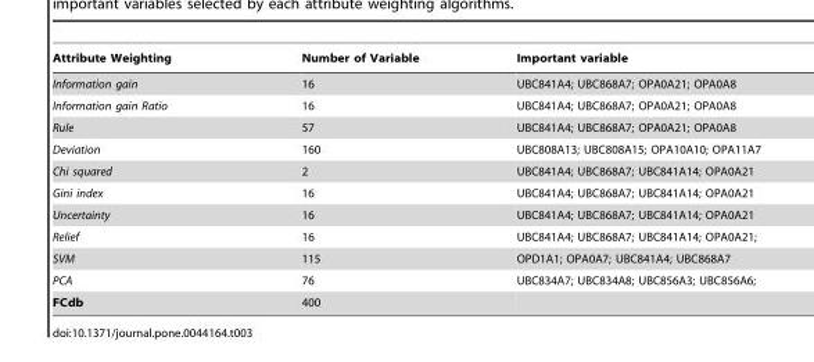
<table><thead><tr><td>Attribute Weighting</td><td>Number of Variable</td><td>Important variable</td></tr></thead><tbody><tr><td>Information gain</td><td>16</td><td>UBC841A4; UBC868A7; OPA0A21; OPA0A8</td></tr><tr><td>Information gain Ratio</td><td>16</td><td>UBC841A4; UBC868A7; OPA0A21; OPA0A8</td></tr><tr><td>Rule</td><td>57</td><td>UBC841A4; UBC868A7; OPA0A21; OPA0A8</td></tr><tr><td>Deviation</td><td>160</td><td>UBC808A13; UBC808A15; OPA10A10; OPA11A7</td></tr><tr><td>Chi squared</td><td>2</td><td>UBC841A4; UBC868A7; UBC841A14; OPA0A21</td></tr><tr><td>Gini index</td><td>16</td><td>UBC841A4; UBC868A7; UBC841A14; OPA0A21</td></tr><tr><td>Uncertainty</td><td>16</td><td>UBC841A4; UBC868A7; UBC841A14; OPA0A21</td></tr><tr><td>Relief</td><td>16</td><td>UBC841A4; UBC868A7; UBC841A14; OPA0A21;</td></tr><tr><td>SVM</td><td>115</td><td>OPD1A1; OPA0A7; UBC841A4; UBC868A7</td></tr><tr><td>PCA</td><td>76</td><td>UBC834A7; UBC834A8; UBC856A3; UBC856A6;</td></tr><tr><td>FCdb</td><td>400</td><td></td></tr></tbody></table>